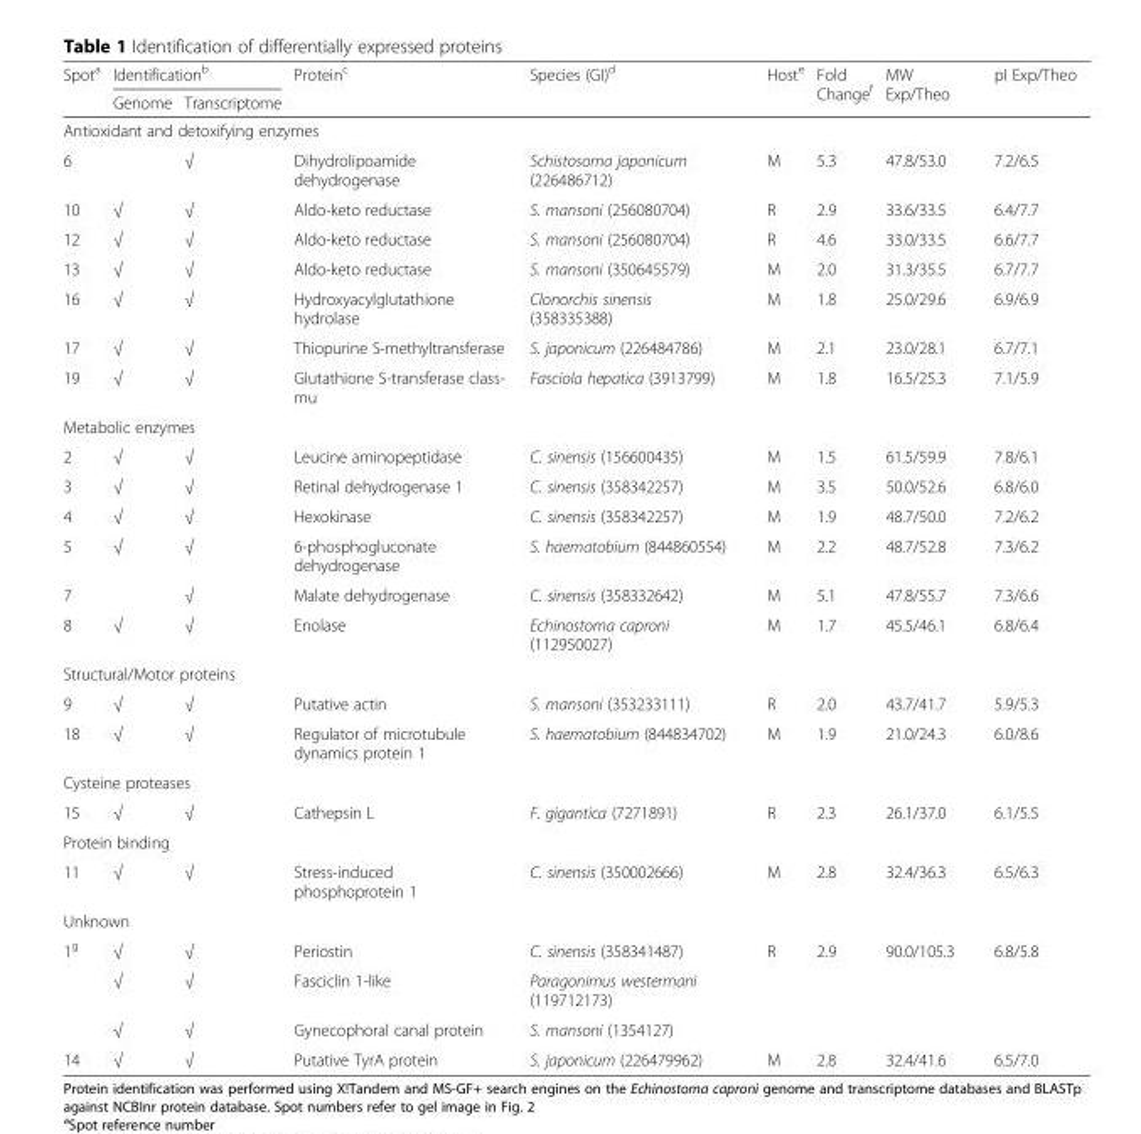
<table><thead><tr><td rowspan="2">Spot<sup>a</sup></td><td colspan="2">Identification<sup>b</sup></td><td rowspan="2">Protein<sup>c</sup></td><td rowspan="2">Species (GI)<sup>d</sup></td><td rowspan="2">Host<sup>e</sup></td><td rowspan="2">Fold Change<sup>f</sup></td><td rowspan="2">MW Exp/Theo</td><td rowspan="2">pI Exp/Theo</td></tr><tr><td>Genome</td><td>Transcriptome</td></tr></thead><tbody><tr><td colspan="9">Antioxidant and detoxifying enzymes</td></tr><tr><td>6</td><td></td><td>√</td><td>Dihydrolipoamide dehydrogenase</td><td>Schistosoma japonicum (226486712)</td><td>M</td><td>5.3</td><td>47.8/53.0</td><td>7.2/6.5</td></tr><tr><td>10</td><td>√</td><td>√</td><td>Aldo-keto reductase</td><td>S. mansoni (256080704)</td><td>R</td><td>2.9</td><td>33.6/33.5</td><td>6.4/7.7</td></tr><tr><td>12</td><td>√</td><td>√</td><td>Aldo-keto reductase</td><td>S. mansoni (256080704)</td><td>R</td><td>4.6</td><td>33.0/33.5</td><td>6.6/7.7</td></tr><tr><td>13</td><td>√</td><td>√</td><td>Aldo-keto reductase</td><td>S. mansoni (350645579)</td><td>M</td><td>2.0</td><td>31.3/35.5</td><td>6.7/7.7</td></tr><tr><td>16</td><td>√</td><td>√</td><td>Hydroxyacylglutathione hydrolase</td><td>Clonorchis sinensis (358335388)</td><td>M</td><td>1.8</td><td>25.0/29.6</td><td>6.9/6.9</td></tr><tr><td>17</td><td>√</td><td>√</td><td>Thiopurine S-methyltransferase</td><td>S. japonicum (226484786)</td><td>M</td><td>2.1</td><td>23.0/28.1</td><td>6.7/7.1</td></tr><tr><td>19</td><td>√</td><td>√</td><td>Glutathione S-transferase class- mu</td><td>Fasciola hepatica (3913799)</td><td>M</td><td>1.8</td><td>16.5/25.3</td><td>7.1/5.9</td></tr><tr><td colspan="9">Metabolic enzymes</td></tr><tr><td>2</td><td>√</td><td>√</td><td>Leucine aminopeptidase</td><td>C. sinensis (156600435)</td><td>M</td><td>1.5</td><td>61.5/59.9</td><td>7.8/6.1</td></tr><tr><td>3</td><td>√</td><td>√</td><td>Retinal dehydrogenase 1</td><td>C. sinensis (358342257)</td><td>M</td><td>3.5</td><td>50.0/52.6</td><td>6.8/6.0</td></tr><tr><td>4</td><td>√</td><td>√</td><td>Hexokinase</td><td>C. sinensis (358342257)</td><td>M</td><td>1.9</td><td>48.7/50.0</td><td>7.2/6.2</td></tr><tr><td>5</td><td>√</td><td>√</td><td>6-phosphogluconate dehydrogenase</td><td>S. haematobium (844860554)</td><td>M</td><td>2.2</td><td>48.7/52.8</td><td>7.3/6.2</td></tr><tr><td>7</td><td></td><td>√</td><td>Malate dehydrogenase</td><td>C. sinensis (358332642)</td><td>M</td><td>5.1</td><td>47.8/55.7</td><td>7.3/6.6</td></tr><tr><td>8</td><td>√</td><td>√</td><td>Enolase</td><td>Echinostoma caproni (112950027)</td><td>M</td><td>1.7</td><td>45.5/46.1</td><td>6.8/6.4</td></tr><tr><td colspan="9">Structural/Motor proteins</td></tr><tr><td>9</td><td>√</td><td>√</td><td>Putative actin</td><td>S. mansoni (353233111)</td><td>R</td><td>2.0</td><td>43.7/41.7</td><td>5.9/5.3</td></tr><tr><td>18</td><td>√</td><td>√</td><td>Regulator of microtubule dynamics protein 1</td><td>S. haematobium (844834702)</td><td>M</td><td>1.9</td><td>21.0/24.3</td><td>6.0/8.6</td></tr><tr><td colspan="9">Cysteine proteases</td></tr><tr><td>15</td><td>√</td><td>√</td><td>Cathepsin L</td><td>F. gigantica (7271891)</td><td>R</td><td>2.3</td><td>26.1/37.0</td><td>6.1/5.5</td></tr><tr><td colspan="9">Protein binding</td></tr><tr><td>11</td><td>√</td><td>√</td><td>Stress-induced phosphoprotein 1</td><td>C. sinensis (350002666)</td><td>M</td><td>2.8</td><td>32.4/36.3</td><td>6.5/6.3</td></tr><tr><td colspan="9">Unknown</td></tr><tr><td rowspan="3">1<sup>g</sup></td><td>√</td><td>√</td><td>Periostin</td><td>C. sinensis (358341487)</td><td rowspan="3">R</td><td rowspan="3">2.9</td><td rowspan="3">90.0/105.3</td><td rowspan="3">6.8/5.8</td></tr><tr><td>√</td><td>√</td><td>Fasciclin 1-like</td><td>Paragonimus westermani (119712173)</td></tr><tr><td>√</td><td>√</td><td>Gynecophoral canal protein</td><td>S. mansoni (1354127)</td></tr><tr><td>14</td><td>√</td><td>√</td><td>Putative TyrA protein</td><td>S. japonicum (226479962)</td><td>M</td><td>2.8</td><td>32.4/41.6</td><td>6.5/7.0</td></tr></tbody></table>